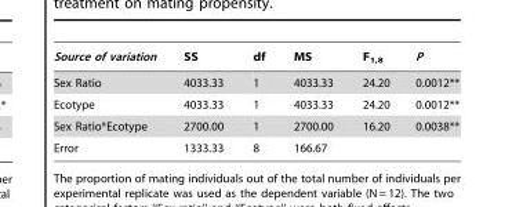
<table><thead><tr><td>Source of variation</td><td>SS</td><td>df</td><td>MS</td><td>F<sub>1,8</sub></td><td>P</td></tr></thead><tbody><tr><td>Sex Ratio</td><td>4033.33</td><td>1</td><td>4033.33</td><td>24.20</td><td>0.0012**</td></tr><tr><td>Ecotype</td><td>4033.33</td><td>1</td><td>4033.33</td><td>24.20</td><td>0.0012**</td></tr><tr><td>Sex Ratio*Ecotype</td><td>2700.00</td><td>1</td><td>2700.00</td><td>16.20</td><td>0.0038**</td></tr><tr><td>Error</td><td>1333.33</td><td>8</td><td>166.67</td><td></td><td></td></tr></tbody></table>